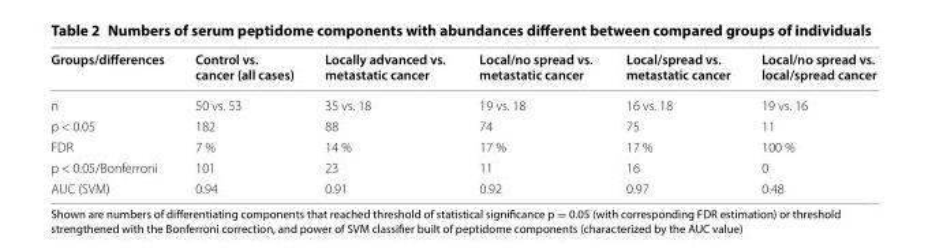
<table><thead><tr><td>Groups/differences</td><td>Control vs. cancer (all cases)</td><td>Locally advanced vs. metastatic cancer</td><td>Local/no spread vs. metastatic cancer</td><td>Local/spread vs. metastatic cancer</td><td>Local/no spread vs. local/spread cancer</td></tr></thead><tbody><tr><td>n</td><td>50 vs. 53</td><td>35 vs. 18</td><td>19 vs. 18</td><td>16 vs. 18</td><td>19 vs. 16</td></tr><tr><td>p &lt; 0.05</td><td>182</td><td>88</td><td>74</td><td>75</td><td>11</td></tr><tr><td>FDR</td><td>7 %</td><td>14 %</td><td>17 %</td><td>17 %</td><td>100 %</td></tr><tr><td>p &lt; 0.05/Bonferroni</td><td>101</td><td>23</td><td>11</td><td>16</td><td>0</td></tr><tr><td>AUC (SVM)</td><td>0.94</td><td>0.91</td><td>0.92</td><td>0.97</td><td>0.48</td></tr></tbody></table>